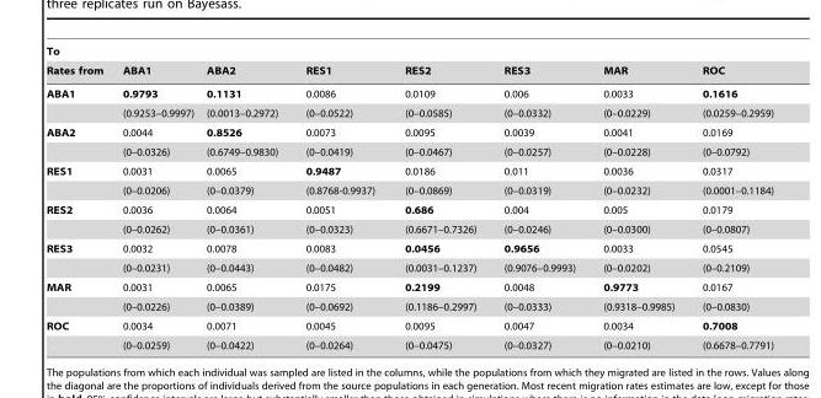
<table><thead><tr><td colspan="8">To</td></tr><tr><td>Rates from</td><td>ABA1</td><td>ABA2</td><td>RES1</td><td>RES2</td><td>RES3</td><td>MAR</td><td>ROC</td></tr></thead><tbody><tr><td rowspan="2">ABA1</td><td>0.9793</td><td>0.1131</td><td>0.0086</td><td>0.0109</td><td>0.006</td><td>0.0033</td><td>0.1616</td></tr><tr><td>(0.9253–0.9997)</td><td>(0.0013–0.2972)</td><td>(0–0.0522)</td><td>(0–0.0585)</td><td>(0–0.0332)</td><td>(0–0.0229)</td><td>(0.0259–0.2959)</td></tr><tr><td rowspan="2">ABA2</td><td>0.0044</td><td>0.8526</td><td>0.0073</td><td>0.0095</td><td>0.0039</td><td>0.0041</td><td>0.0169</td></tr><tr><td>(0–0.0326)</td><td>(0.6749–0.9830)</td><td>(0–0.0419)</td><td>(0–0.0467)</td><td>(0–0.0257)</td><td>(0–0.0228)</td><td>(0–0.0792)</td></tr><tr><td rowspan="2">RES1</td><td>0.0031</td><td>0.0065</td><td>0.9487</td><td>0.0186</td><td>0.011</td><td>0.0036</td><td>0.0317</td></tr><tr><td>(0–0.0206)</td><td>(0–0.0379)</td><td>(0.8768-0.9937)</td><td>(0–0.0869)</td><td>(0–0.0319)</td><td>(0–0.0232)</td><td>(0.0001–0.1184)</td></tr><tr><td rowspan="2">RES2</td><td>0.0036</td><td>0.0064</td><td>0.0051</td><td>0.686</td><td>0.004</td><td>0.005</td><td>0.0179</td></tr><tr><td>(0–0.0262)</td><td>(0–0.0361)</td><td>(0–0.0323)</td><td>(0.6671–0.7326)</td><td>(0–0.0246)</td><td>(0–0.0300)</td><td>(0–0.0807)</td></tr><tr><td rowspan="2">RES3</td><td>0.0032</td><td>0.0078</td><td>0.0083</td><td>0.0456</td><td>0.9656</td><td>0.0033</td><td>0.0545</td></tr><tr><td>(0–0.0231)</td><td>(0–0.0443)</td><td>(0–0.0482)</td><td>(0.0031–0.1237)</td><td>(0.9076–0.9993)</td><td>(0–0.0202)</td><td>(0–0.2109)</td></tr><tr><td rowspan="2">MAR</td><td>0.0031</td><td>0.0065</td><td>0.0175</td><td>0.2199</td><td>0.0048</td><td>0.9773</td><td>0.0167</td></tr><tr><td>(0–0.0226)</td><td>(0–0.0389)</td><td>(0–0.0692)</td><td>(0.1186–0.2997)</td><td>(0–0.0333)</td><td>(0.9318–0.9985)</td><td>(0–0.0830)</td></tr><tr><td rowspan="2">ROC</td><td>0.0034</td><td>0.0071</td><td>0.0045</td><td>0.0095</td><td>0.0047</td><td>0.0034</td><td>0.7008</td></tr><tr><td>(0–0.0259)</td><td>(0–0.0422)</td><td>(0–0.0264)</td><td>(0–0.0475)</td><td>(0–0.0327)</td><td>(0–0.0210)</td><td>(0.6678–0.7791)</td></tr></tbody></table>